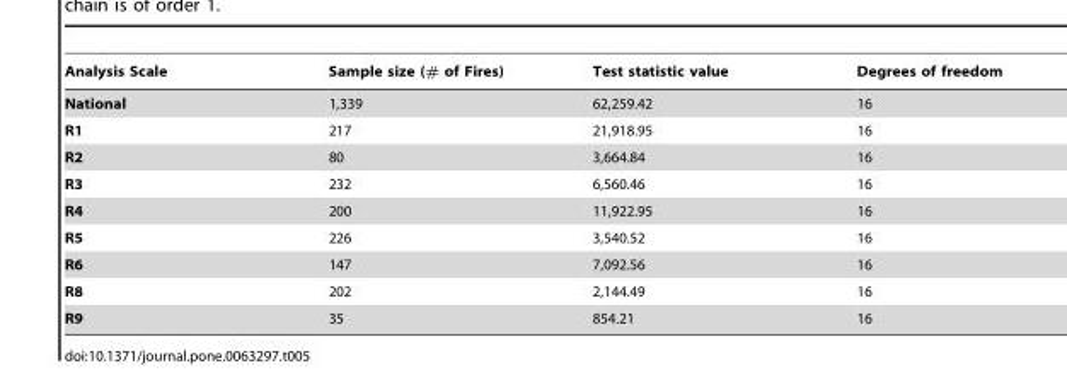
<table><thead><tr><td>Analysis Scale</td><td>Sample size (# of Fires)</td><td>Test statistic value</td><td>Degrees of freedom</td></tr></thead><tbody><tr><td>National</td><td>1,339</td><td>62,259.42</td><td>16</td></tr><tr><td>R1</td><td>217</td><td>21,918.95</td><td>16</td></tr><tr><td>R2</td><td>80</td><td>3,664.84</td><td>16</td></tr><tr><td>R3</td><td>232</td><td>6,560.46</td><td>16</td></tr><tr><td>R4</td><td>200</td><td>11,922.95</td><td>16</td></tr><tr><td>R5</td><td>226</td><td>3,540.52</td><td>16</td></tr><tr><td>R6</td><td>147</td><td>7,092.56</td><td>16</td></tr><tr><td>R8</td><td>202</td><td>2,144.49</td><td>16</td></tr><tr><td>R9</td><td>35</td><td>854.21</td><td>16</td></tr></tbody></table>